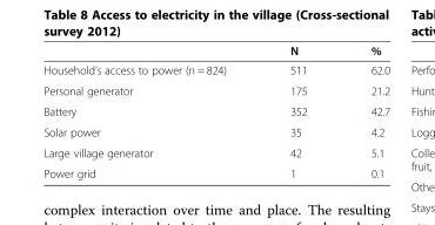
<table><thead><tr><td></td><td>N</td><td>%</td></tr></thead><tbody><tr><td>Household’s access to power (n = 824)</td><td>511</td><td>62.0</td></tr><tr><td>Personal generator</td><td>175</td><td>21.2</td></tr><tr><td>Battery</td><td>352</td><td>42.7</td></tr><tr><td>Solar power</td><td>35</td><td>4.2</td></tr><tr><td>Large village generator</td><td>42</td><td>5.1</td></tr><tr><td>Power grid</td><td>1</td><td>0.1</td></tr></tbody></table>